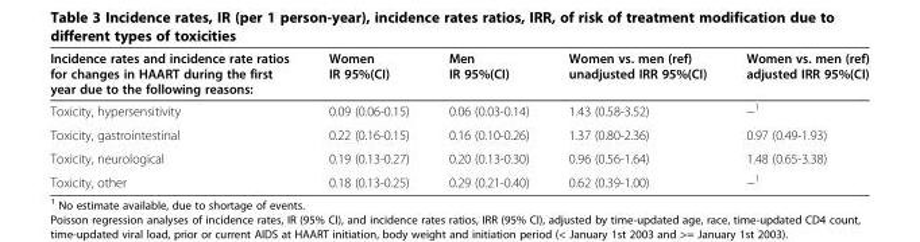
<table><thead><tr><td>Incidence rates and incidence rate ratios for changes in HAART during the first year due to the following reasons:</td><td>Women IR 95%(CI)</td><td>Men IR 95%(CI)</td><td>Women vs. men (ref) unadjusted IRR 95%(CI)</td><td>Women vs. men (ref) adjusted IRR 95%(CI)</td></tr></thead><tbody><tr><td>Toxicity, hypersensitivity</td><td>0.09 (0.06-0.15)</td><td>0.06 (0.03-0.14)</td><td>1.43 (0.58-3.52)</td><td>−<sup>1</sup></td></tr><tr><td>Toxicity, gastrointestinal</td><td>0.22 (0.16-0.15)</td><td>0.16 (0.10-0.26)</td><td>1.37 (0.80-2.36)</td><td>0.97 (0.49-1.93)</td></tr><tr><td>Toxicity, neurological</td><td>0.19 (0.13-0.27)</td><td>0.20 (0.13-0.30)</td><td>0.96 (0.56-1.64)</td><td>1.48 (0.65-3.38)</td></tr><tr><td>Toxicity, other</td><td>0.18 (0.13-0.25)</td><td>0.29 (0.21-0.40)</td><td>0.62 (0.39-1.00)</td><td>−<sup>1</sup></td></tr></tbody></table>